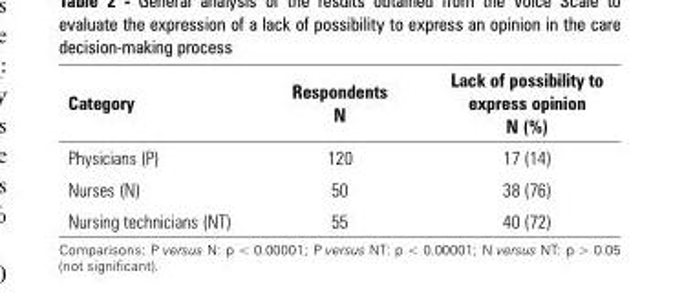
<table><thead><tr><td>Category</td><td>Respondents N</td><td>Lack of possibility to express opinion N (%)</td></tr></thead><tbody><tr><td>Physicians (P)</td><td>120</td><td>17 (14)</td></tr><tr><td>Nurses (N)</td><td>50</td><td>38 (76)</td></tr><tr><td>Nursing technicians (NT)</td><td>55</td><td>40 (72)</td></tr></tbody></table>